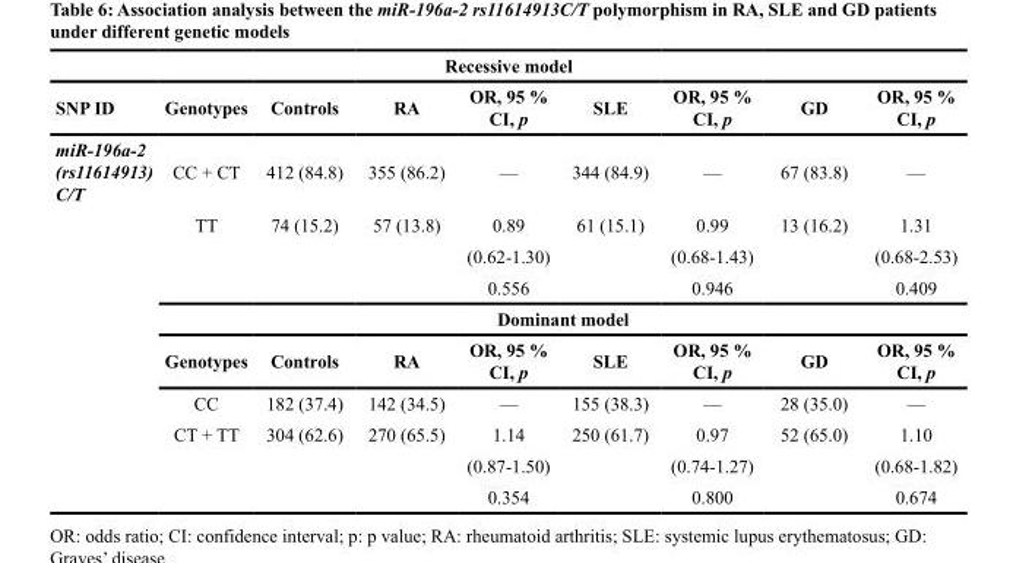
<table><thead><tr><td colspan="9">Recessive model</td></tr><tr><td>SNP ID</td><td>Genotypes</td><td>Controls</td><td>RA</td><td>OR, 95 % CI, p</td><td>SLE</td><td>OR, 95 % CI, p</td><td>GD</td><td>OR, 95 % CI, p</td></tr></thead><tbody><tr><td rowspan="10">miR-196a-2 (rs11614913) C/T</td><td>CC + CT</td><td>412 (84.8)</td><td>355 (86.2)</td><td>—</td><td>344 (84.9)</td><td>—</td><td>67 (83.8)</td><td>—</td></tr><tr><td>TT</td><td>74 (15.2)</td><td>57 (13.8)</td><td>0.89</td><td>61 (15.1)</td><td>0.99</td><td>13 (16.2)</td><td>1.31</td></tr><tr><td></td><td></td><td></td><td>(0.62-1.30)</td><td></td><td>(0.68-1.43)</td><td></td><td>(0.68-2.53)</td></tr><tr><td></td><td></td><td></td><td>0.556</td><td></td><td>0.946</td><td></td><td>0.409</td></tr><tr><td colspan="8">Dominant model</td></tr><tr><td>Genotypes</td><td>Controls</td><td>RA</td><td>OR, 95 % CI, p</td><td>SLE</td><td>OR, 95 % CI, p</td><td>GD</td><td>OR, 95 % CI, p</td></tr><tr><td>CC</td><td>182 (37.4)</td><td>142 (34.5)</td><td>—</td><td>155 (38.3)</td><td>—</td><td>28 (35.0)</td><td>—</td></tr><tr><td>CT + TT</td><td>304 (62.6)</td><td>270 (65.5)</td><td>1.14</td><td>250 (61.7)</td><td>0.97</td><td>52 (65.0)</td><td>1.10</td></tr><tr><td></td><td></td><td></td><td>(0.87-1.50)</td><td></td><td>(0.74-1.27)</td><td></td><td>(0.68-1.82)</td></tr><tr><td></td><td></td><td></td><td>0.354</td><td></td><td>0.800</td><td></td><td>0.674</td></tr></tbody></table>